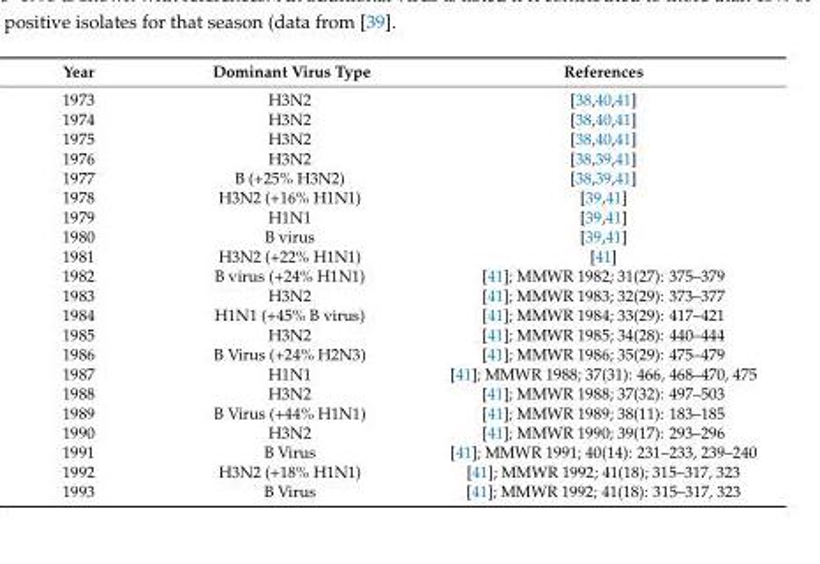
<table><thead><tr><td>Year</td><td>Dominant Virus Type</td><td>References</td></tr></thead><tbody><tr><td>1973</td><td>H3N2</td><td>[38,40,41]</td></tr><tr><td>1974</td><td>H3N2</td><td>[38,40,41]</td></tr><tr><td>1975</td><td>H3N2</td><td>[38,40,41]</td></tr><tr><td>1976</td><td>H3N2</td><td>[38,39,41]</td></tr><tr><td>1977</td><td>B (+25% H3N2)</td><td>[38,39,41]</td></tr><tr><td>1978</td><td>H3N2 (+16% H1N1)</td><td>[39,41]</td></tr><tr><td>1979</td><td>H1N1</td><td>[39,41]</td></tr><tr><td>1980</td><td>B virus</td><td>[39,41]</td></tr><tr><td>1981</td><td>H3N2 (+22% H1N1)</td><td>[41]</td></tr><tr><td>1982</td><td>B virus (+24% H1N1)</td><td>[41]; MMWR 1982; 31(27): 375–379</td></tr><tr><td>1983</td><td>H3N2</td><td>[41]; MMWR 1983; 32(29): 373–377</td></tr><tr><td>1984</td><td>H1N1 (+45% B virus)</td><td>[41]; MMWR 1984; 33(29): 417–421</td></tr><tr><td>1985</td><td>H3N2</td><td>[41]; MMWR 1985; 34(28): 440–444</td></tr><tr><td>1986</td><td>B Virus (+24% H2N3)</td><td>[41]; MMWR 1986; 35(29): 475–479</td></tr><tr><td>1987</td><td>H1N1</td><td>[41]; MMWR 1988; 37(31): 466, 468–470, 475</td></tr><tr><td>1988</td><td>H3N2</td><td>[41]; MMWR 1988; 37(32): 497–503</td></tr><tr><td>1989</td><td>B Virus (+44% H1N1)</td><td>[41]; MMWR 1989; 38(11): 183–185</td></tr><tr><td>1990</td><td>H3N2</td><td>[41]; MMWR 1990; 39(17): 293–296</td></tr><tr><td>1991</td><td>B Virus</td><td>[41]; MMWR 1991; 40(14): 231–233, 239–240</td></tr><tr><td>1992</td><td>H3N2 (+18% H1N1)</td><td>[41]; MMWR 1992; 41(18); 315–317, 323</td></tr><tr><td>1993</td><td>B Virus</td><td>[41]; MMWR 1992; 41(18): 315–317, 323</td></tr></tbody></table>